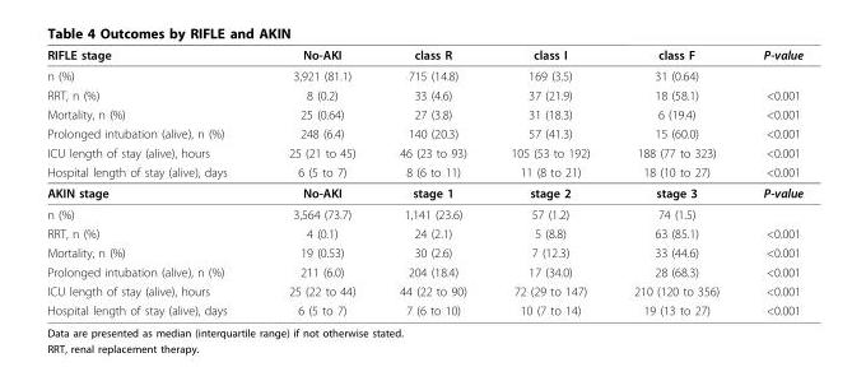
<table><thead><tr><td>RIFLE stage</td><td>No-AKI</td><td>class R</td><td>class I</td><td>class F</td><td>P-value</td></tr></thead><tbody><tr><td>n (%)</td><td>3,921 (81.1)</td><td>715 (14.8)</td><td>169 (3.5)</td><td>31 (0.64)</td><td></td></tr><tr><td>RRT, n (%)</td><td>8 (0.2)</td><td>33 (4.6)</td><td>37 (21.9)</td><td>18 (58.1)</td><td>&lt;0.001</td></tr><tr><td>Mortality, n (%)</td><td>25 (0.64)</td><td>27 (3.8)</td><td>31 (18.3)</td><td>6 (19.4)</td><td>&lt;0.001</td></tr><tr><td>Prolonged intubation (alive), n (%)</td><td>248 (6.4)</td><td>140 (20.3)</td><td>57 (41.3)</td><td>15 (60.0)</td><td>&lt;0.001</td></tr><tr><td>ICU length of stay (alive), hours</td><td>25 (21 to 45)</td><td>46 (23 to 93)</td><td>105 (53 to 192)</td><td>188 (77 to 323)</td><td>&lt;0.001</td></tr><tr><td>Hospital length of stay (alive), days</td><td>6 (5 to 7)</td><td>8 (6 to 11)</td><td>11 (8 to 21)</td><td>18 (10 to 27)</td><td>&lt;0.001</td></tr><tr><td>AKIN stage</td><td>No-AKI</td><td>stage 1</td><td>stage 2</td><td>stage 3</td><td>P-value</td></tr><tr><td>n (%)</td><td>3,564 (73.7)</td><td>1,141 (23.6)</td><td>57 (1.2)</td><td>74 (1.5)</td><td></td></tr><tr><td>RRT, n (%)</td><td>4 (0.1)</td><td>24 (2.1)</td><td>5 (8.8)</td><td>63 (85.1)</td><td>&lt;0.001</td></tr><tr><td>Mortality, n (%)</td><td>19 (0.53)</td><td>30 (2.6)</td><td>7 (12.3)</td><td>33 (44.6)</td><td>&lt;0.001</td></tr><tr><td>Prolonged intubation (alive), n (%)</td><td>211 (6.0)</td><td>204 (18.4)</td><td>17 (34.0)</td><td>28 (68.3)</td><td>&lt;0.001</td></tr><tr><td>ICU length of stay (alive), hours</td><td>25 (22 to 44)</td><td>44 (22 to 90)</td><td>72 (29 to 147)</td><td>210 (120 to 356)</td><td>&lt;0.001</td></tr><tr><td>Hospital length of stay (alive), days</td><td>6 (5 to 7)</td><td>7 (6 to 10)</td><td>10 (7 to 14)</td><td>19 (13 to 27)</td><td>&lt;0.001</td></tr></tbody></table>